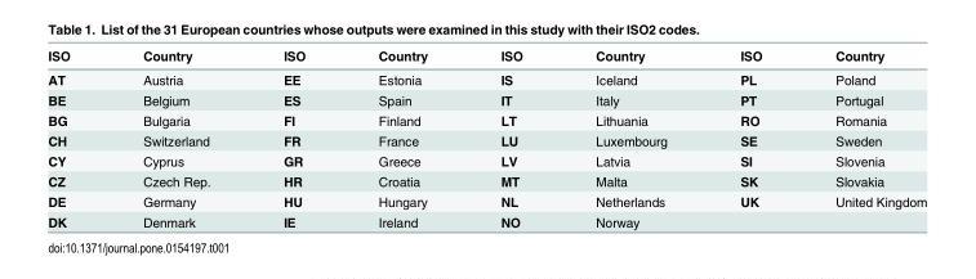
<table><thead><tr><td>ISO</td><td>Country</td><td>ISO</td><td>Country</td><td>ISO</td><td>Country</td><td>ISO</td><td>Country</td></tr></thead><tbody><tr><td>AT</td><td>Austria</td><td>EE</td><td>Estonia</td><td>IS</td><td>Iceland</td><td>PL</td><td>Poland</td></tr><tr><td>BE</td><td>Belgium</td><td>ES</td><td>Spain</td><td>IT</td><td>Italy</td><td>PT</td><td>Portugal</td></tr><tr><td>BG</td><td>Bulgaria</td><td>FI</td><td>Finland</td><td>LT</td><td>Lithuania</td><td>RO</td><td>Romania</td></tr><tr><td>CH</td><td>Switzerland</td><td>FR</td><td>France</td><td>LU</td><td>Luxembourg</td><td>SE</td><td>Sweden</td></tr><tr><td>CY</td><td>Cyprus</td><td>GR</td><td>Greece</td><td>LV</td><td>Latvia</td><td>SI</td><td>Slovenia</td></tr><tr><td>CZ</td><td>Czech Rep.</td><td>HR</td><td>Croatia</td><td>MT</td><td>Malta</td><td>SK</td><td>Slovakia</td></tr><tr><td>DE</td><td>Germany</td><td>HU</td><td>Hungary</td><td>NL</td><td>Netherlands</td><td>UK</td><td>United Kingdom</td></tr><tr><td>DK</td><td>Denmark</td><td>IE</td><td>Ireland</td><td>NO</td><td>Norway</td><td></td><td></td></tr></tbody></table>